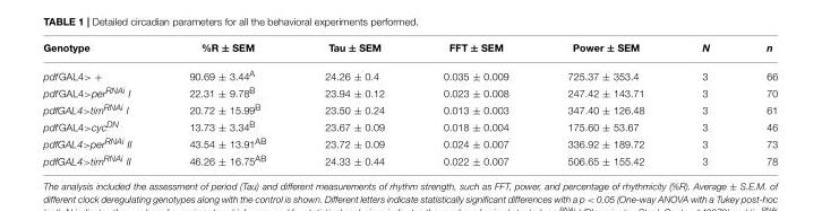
<table><thead><tr><td>Genotype</td><td>%R ± SEM</td><td>Tau ± SEM</td><td>FFT ± SEM</td><td>Power ± SEM</td><td>N</td><td>n</td></tr></thead><tbody><tr><td>pdfGAL4&gt; +</td><td>90.69 ± 3.44<sup>A</sup></td><td>24.26 ± 0.4</td><td>0.035 ± 0.009</td><td>725.37 ± 353.4</td><td>3</td><td>66</td></tr><tr><td>pdfGAL4&gt;perRNAi I</td><td>22.31 ± 9.78<sup>B</sup></td><td>23.94 ± 0.12</td><td>0.023 ± 0.008</td><td>247.42 ± 143.71</td><td>3</td><td>70</td></tr><tr><td>pdfGAL4&gt;timRNAi I</td><td>20.72 ± 15.99<sup>B</sup></td><td>23.50 ± 0.24</td><td>0.013 ± 0.003</td><td>347.40 ± 126.48</td><td>3</td><td>61</td></tr><tr><td>pdfGAL4&gt;cycDN</td><td>13.73 ± 3.34<sup>B</sup></td><td>23.67 ± 0.09</td><td>0.018 ± 0.004</td><td>175.60 ± 53.67</td><td>3</td><td>46</td></tr><tr><td>pdfGAL4&gt;perRNAi II</td><td>43.54 ± 13.91<sup>AB</sup></td><td>23.72 ± 0.09</td><td>0.024 ± 0.007</td><td>336.92 ± 189.72</td><td>3</td><td>73</td></tr><tr><td>pdfGAL4&gt;timRNAi II</td><td>46.26 ± 16.75<sup>AB</sup></td><td>24.33 ± 0.44</td><td>0.022 ± 0.007</td><td>506.65 ± 155.42</td><td>3</td><td>78</td></tr></tbody></table>